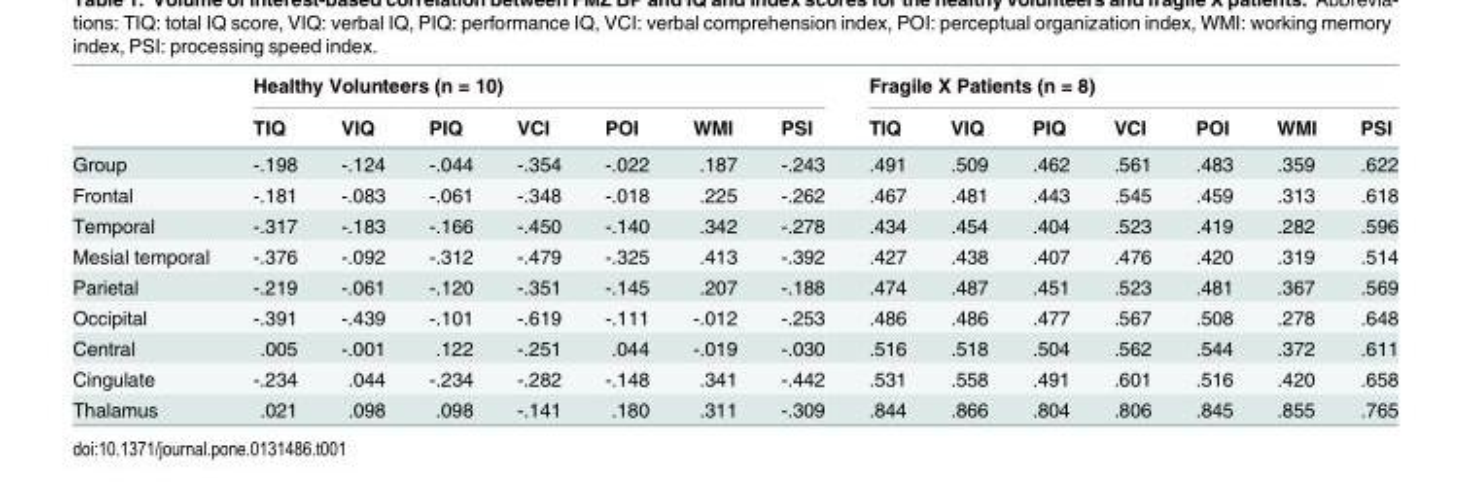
<table><thead><tr><td rowspan="2"></td><td colspan="7">Healthy Volunteers (n = 10)</td><td colspan="7">Fragile X Patients (n = 8)</td></tr><tr><td>TIQ</td><td>VIQ</td><td>PIQ</td><td>VCI</td><td>POI</td><td>WMI</td><td>PSI</td><td>TIQ</td><td>VIQ</td><td>PIQ</td><td>VCI</td><td>POI</td><td>WMI</td><td>PSI</td></tr></thead><tbody><tr><td>Group</td><td>-.198</td><td>-.124</td><td>-.044</td><td>-.354</td><td>-.022</td><td>.187</td><td>-.243</td><td>.491</td><td>.509</td><td>.462</td><td>.561</td><td>.483</td><td>.359</td><td>.622</td></tr><tr><td>Frontal</td><td>-.181</td><td>-.083</td><td>-.061</td><td>-.348</td><td>-.018</td><td>.225</td><td>-.262</td><td>.467</td><td>.481</td><td>.443</td><td>.545</td><td>.459</td><td>.313</td><td>.618</td></tr><tr><td>Temporal</td><td>-.317</td><td>-.183</td><td>-.166</td><td>-.450</td><td>-.140</td><td>.342</td><td>-.278</td><td>.434</td><td>.454</td><td>.404</td><td>.523</td><td>.419</td><td>.282</td><td>.596</td></tr><tr><td>Mesial temporal</td><td>-.376</td><td>-.092</td><td>-.312</td><td>-.479</td><td>-.325</td><td>.413</td><td>-.392</td><td>.427</td><td>.438</td><td>.407</td><td>.476</td><td>.420</td><td>.319</td><td>.514</td></tr><tr><td>Parietal</td><td>-.219</td><td>-.061</td><td>-.120</td><td>-.351</td><td>-.145</td><td>.207</td><td>-.188</td><td>.474</td><td>.487</td><td>.451</td><td>.523</td><td>.481</td><td>.367</td><td>.569</td></tr><tr><td>Occipital</td><td>-.391</td><td>-.439</td><td>-.101</td><td>-.619</td><td>-.111</td><td>-.012</td><td>-.253</td><td>.486</td><td>.486</td><td>.477</td><td>.567</td><td>.508</td><td>.278</td><td>.648</td></tr><tr><td>Central</td><td>.005</td><td>-.001</td><td>.122</td><td>-.251</td><td>.044</td><td>-.019</td><td>-.030</td><td>.516</td><td>.518</td><td>.504</td><td>.562</td><td>.544</td><td>.372</td><td>.611</td></tr><tr><td>Cingulate</td><td>-.234</td><td>.044</td><td>-.234</td><td>-.282</td><td>-.148</td><td>.341</td><td>-.442</td><td>.531</td><td>.558</td><td>.491</td><td>.601</td><td>.516</td><td>.420</td><td>.658</td></tr><tr><td>Thalamus</td><td>.021</td><td>.098</td><td>.098</td><td>-.141</td><td>.180</td><td>.311</td><td>-.309</td><td>.844</td><td>.866</td><td>.804</td><td>.806</td><td>.845</td><td>.855</td><td>.765</td></tr></tbody></table>